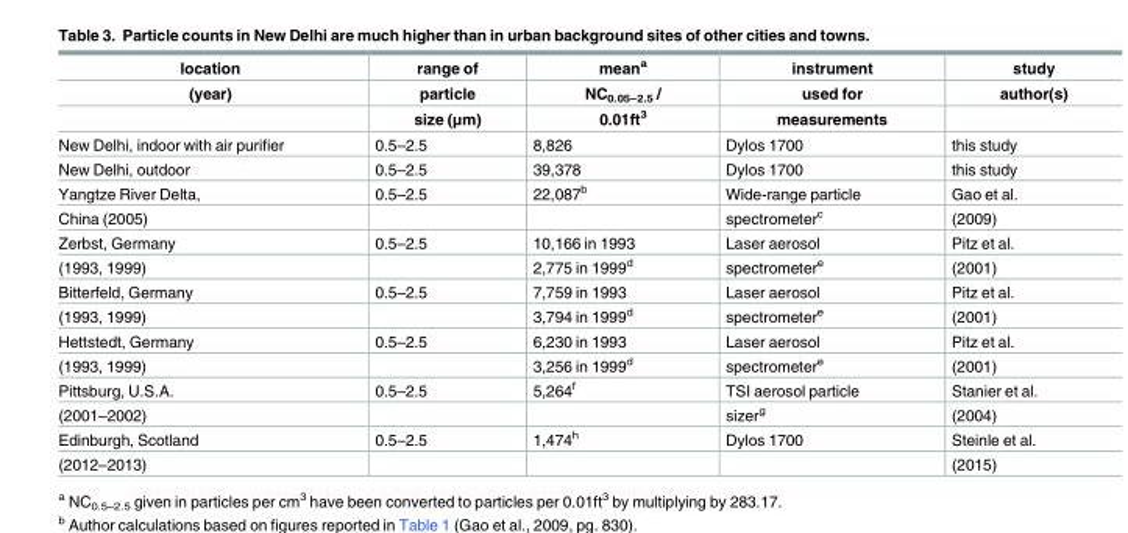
<table><thead><tr><td rowspan="3">location (year)</td><td rowspan="3">range of particle size (μm)</td><td rowspan="3">mean<sup>a</sup> NC<sub>0.05–2.5</sub> / 0.01ft<sup>3</sup></td><td rowspan="3">instrument used for measurements</td><td rowspan="3">study author(s)</td></tr><tr></tr><tr></tr></thead><tbody><tr><td>New Delhi, indoor with air purifier</td><td>0.5–2.5</td><td>8,826</td><td>Dylos 1700</td><td>this study</td></tr><tr><td>New Delhi, outdoor</td><td>0.5–2.5</td><td>39,378</td><td>Dylos 1700</td><td>this study</td></tr><tr><td>Yangtze River Delta,</td><td>0.5–2.5</td><td>22,087<sup>b</sup></td><td>Wide-range particle</td><td>Gao et al.</td></tr><tr><td>China (2005)</td><td></td><td></td><td>spectrometer<sup>c</sup></td><td>(2009)</td></tr><tr><td>Zerbst, Germany</td><td>0.5–2.5</td><td>10,166 in 1993</td><td>Laser aerosol</td><td>Pitz et al.</td></tr><tr><td>(1993, 1999)</td><td></td><td>2,775 in 1999<sup>d</sup></td><td>spectrometer<sup>e</sup></td><td>(2001)</td></tr><tr><td>Bitterfeld, Germany</td><td>0.5–2.5</td><td>7,759 in 1993</td><td>Laser aerosol</td><td>Pitz et al.</td></tr><tr><td>(1993, 1999)</td><td></td><td>3,794 in 1999<sup>d</sup></td><td>spectrometer<sup>e</sup></td><td>(2001)</td></tr><tr><td>Hettstedt, Germany</td><td>0.5–2.5</td><td>6,230 in 1993</td><td>Laser aerosol</td><td>Pitz et al.</td></tr><tr><td>(1993, 1999)</td><td></td><td>3,256 in 1999<sup>d</sup></td><td>spectrometer<sup>e</sup></td><td>(2001)</td></tr><tr><td>Pittsburg, U.S.A.</td><td>0.5–2.5</td><td>5,264<sup>f</sup></td><td>TSI aerosol particle</td><td>Stanier et al.</td></tr><tr><td>(2001–2002)</td><td></td><td></td><td>sizer<sup>g</sup></td><td>(2004)</td></tr><tr><td>Edinburgh, Scotland</td><td>0.5–2.5</td><td>1,474<sup>h</sup></td><td>Dylos 1700</td><td>Steinle et al.</td></tr><tr><td>(2012–2013)</td><td></td><td></td><td></td><td>(2015)</td></tr></tbody></table>